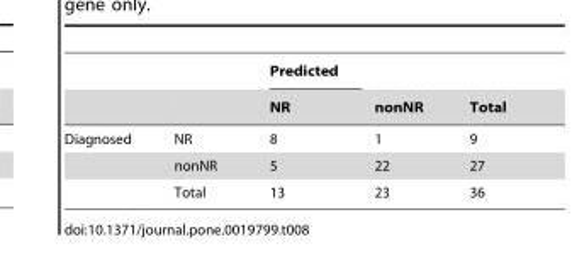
<table><thead><tr><td rowspan="2"></td><td rowspan="2"></td><td rowspan="2">Predicted NR</td><td rowspan="2">nonNR</td><td rowspan="2">Total</td></tr><tr></tr></thead><tbody><tr><td rowspan="3">Diagnosed</td><td>NR</td><td>8</td><td>1</td><td>9</td></tr><tr><td>nonNR</td><td>5</td><td>22</td><td>27</td></tr><tr><td>Total</td><td>13</td><td>23</td><td>36</td></tr></tbody></table>